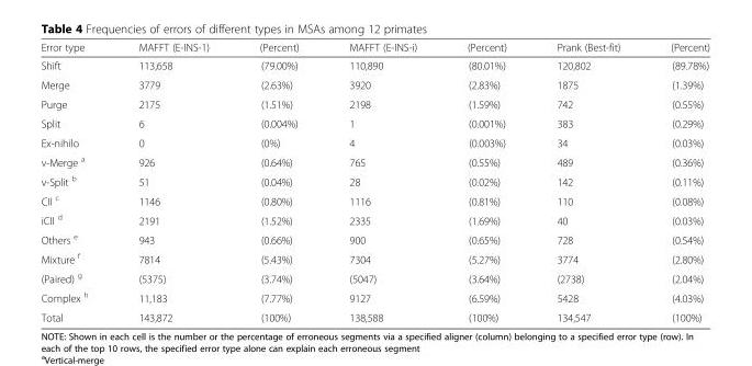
<table><thead><tr><td>Error type</td><td>MAFFT (E-INS-1)</td><td>(Percent)</td><td>MAFFT (E-INS-i)</td><td>(Percent)</td><td>Prank (Best-fit)</td><td>(Percent)</td></tr></thead><tbody><tr><td>Shift</td><td>113,658</td><td>(79.00%)</td><td>110,890</td><td>(80.01%)</td><td>120,802</td><td>(89.78%)</td></tr><tr><td>Merge</td><td>3779</td><td>(2.63%)</td><td>3920</td><td>(2.83%)</td><td>1875</td><td>(1.39%)</td></tr><tr><td>Purge</td><td>2175</td><td>(1.51%)</td><td>2198</td><td>(1.59%)</td><td>742</td><td>(0.55%)</td></tr><tr><td>Split</td><td>6</td><td>(0.004%)</td><td>1</td><td>(0.001%)</td><td>383</td><td>(0.29%)</td></tr><tr><td>Ex-nihilo</td><td>0</td><td>(0%)</td><td>4</td><td>(0.003%)</td><td>34</td><td>(0.03%)</td></tr><tr><td>v-Merge <sup>a</sup></td><td>926</td><td>(0.64%)</td><td>765</td><td>(0.55%)</td><td>489</td><td>(0.36%)</td></tr><tr><td>v-Split <sup>b</sup></td><td>51</td><td>(0.04%)</td><td>28</td><td>(0.02%)</td><td>142</td><td>(0.11%)</td></tr><tr><td>CII <sup>c</sup></td><td>1146</td><td>(0.80%)</td><td>1116</td><td>(0.81%)</td><td>110</td><td>(0.08%)</td></tr><tr><td>iCII <sup>d</sup></td><td>2191</td><td>(1.52%)</td><td>2335</td><td>(1.69%)</td><td>40</td><td>(0.03%)</td></tr><tr><td>Others <sup>e</sup></td><td>943</td><td>(0.66%)</td><td>900</td><td>(0.65%)</td><td>728</td><td>(0.54%)</td></tr><tr><td>Mixture <sup>f</sup></td><td>7814</td><td>(5.43%)</td><td>7304</td><td>(5.27%)</td><td>3774</td><td>(2.80%)</td></tr><tr><td>(Paired) <sup>g</sup></td><td>(5375)</td><td>(3.74%)</td><td>(5047)</td><td>(3.64%)</td><td>(2738)</td><td>(2.04%)</td></tr><tr><td>Complex <sup>h</sup></td><td>11,183</td><td>(7.77%)</td><td>9127</td><td>(6.59%)</td><td>5428</td><td>(4.03%)</td></tr><tr><td>Total</td><td>143,872</td><td>(100%)</td><td>138,588</td><td>(100%)</td><td>134,547</td><td>(100%)</td></tr></tbody></table>